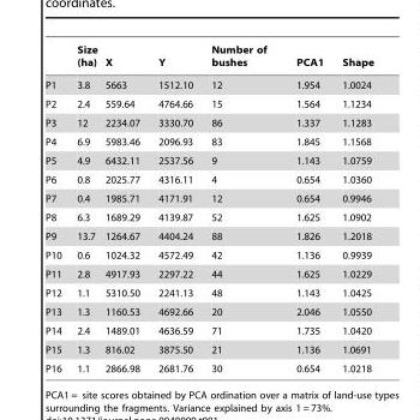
<table><thead><tr><td></td><td>Size (ha)</td><td>X</td><td>Y</td><td>Number of bushes</td><td>PCA1</td><td>Shape</td></tr></thead><tbody><tr><td>P1</td><td>3.8</td><td>5663</td><td>1512.10</td><td>12</td><td>1.954</td><td>1.0024</td></tr><tr><td>P2</td><td>2.4</td><td>559.64</td><td>4764.66</td><td>15</td><td>1.564</td><td>1.1234</td></tr><tr><td>P3</td><td>12</td><td>2234.07</td><td>3330.70</td><td>86</td><td>1.337</td><td>1.1283</td></tr><tr><td>P4</td><td>6.9</td><td>5983.46</td><td>2096.93</td><td>83</td><td>1.845</td><td>1.1568</td></tr><tr><td>P5</td><td>4.9</td><td>6432.11</td><td>2537.56</td><td>9</td><td>1.143</td><td>1.0759</td></tr><tr><td>P6</td><td>0.8</td><td>2025.77</td><td>4316.11</td><td>4</td><td>0.654</td><td>1.0360</td></tr><tr><td>P7</td><td>0.4</td><td>1985.71</td><td>4171.91</td><td>12</td><td>0.654</td><td>0.9946</td></tr><tr><td>P8</td><td>6.3</td><td>1689.29</td><td>4139.87</td><td>52</td><td>1.625</td><td>1.0902</td></tr><tr><td>P9</td><td>13.7</td><td>1264.67</td><td>4404.24</td><td>88</td><td>1.826</td><td>1.2018</td></tr><tr><td>P10</td><td>0.6</td><td>1024.32</td><td>4572.49</td><td>42</td><td>1.136</td><td>0.9939</td></tr><tr><td>P11</td><td>2.8</td><td>4917.93</td><td>2297.22</td><td>44</td><td>1.625</td><td>1.0229</td></tr><tr><td>P12</td><td>1.1</td><td>5310.50</td><td>2241.13</td><td>48</td><td>1.143</td><td>1.0425</td></tr><tr><td>P13</td><td>1.3</td><td>1160.53</td><td>4692.66</td><td>20</td><td>2.046</td><td>1.0550</td></tr><tr><td>P14</td><td>2.4</td><td>1489.01</td><td>4636.59</td><td>71</td><td>1.735</td><td>1.0420</td></tr><tr><td>P15</td><td>1.3</td><td>816.02</td><td>3875.50</td><td>21</td><td>1.136</td><td>1.0691</td></tr><tr><td>P16</td><td>1.1</td><td>2866.98</td><td>2681.76</td><td>30</td><td>0.654</td><td>1.0218</td></tr></tbody></table>